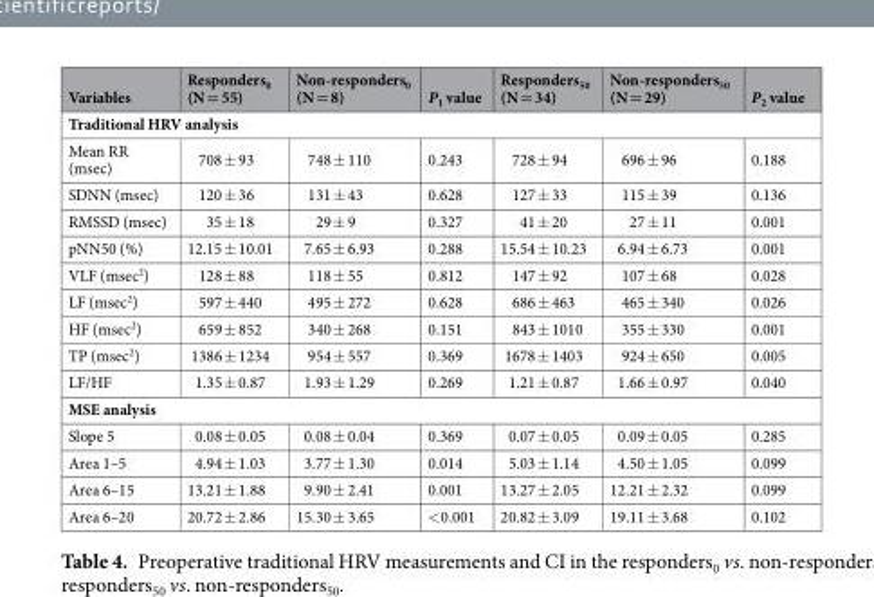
<table><thead><tr><td>Variables</td><td>Responders<sub>0</sub> (N = 55)</td><td>Non-responders<sub>0</sub> (N = 8)</td><td>P<sub>1</sub> value</td><td>Responders<sub>50</sub> (N = 34)</td><td>Non-responders<sub>50</sub> (N = 29)</td><td>P<sub>2</sub> value</td></tr></thead><tbody><tr><td colspan="7">Traditional HRV analysis</td></tr><tr><td>Mean RR (msec)</td><td>708 ± 93</td><td>748 ± 110</td><td>0.243</td><td>728 ± 94</td><td>696 ± 96</td><td>0.188</td></tr><tr><td>SDNN (msec)</td><td>120 ± 36</td><td>131 ± 43</td><td>0.628</td><td>127 ± 33</td><td>115 ± 39</td><td>0.136</td></tr><tr><td>RMSSD (msec)</td><td>35 ± 18</td><td>29 ± 9</td><td>0.327</td><td>41 ± 20</td><td>27 ± 11</td><td>0.001</td></tr><tr><td>pNN50 (%)</td><td>12.15 ± 10.01</td><td>7.65 ± 6.93</td><td>0.288</td><td>15.54 ± 10.23</td><td>6.94 ± 6.73</td><td>0.001</td></tr><tr><td>VLF (msec<sup>2</sup>)</td><td>128 ± 88</td><td>118 ± 55</td><td>0.812</td><td>147 ± 92</td><td>107 ± 68</td><td>0.028</td></tr><tr><td>LF (msec<sup>2</sup>)</td><td>597 ± 440</td><td>495 ± 272</td><td>0.628</td><td>686 ± 463</td><td>465 ± 340</td><td>0.026</td></tr><tr><td>HF (msec<sup>2</sup>)</td><td>659 ± 852</td><td>340 ± 268</td><td>0.151</td><td>843 ± 1010</td><td>355 ± 330</td><td>0.001</td></tr><tr><td>TP (msec<sup>2</sup>)</td><td>1386 ± 1234</td><td>954 ± 557</td><td>0.369</td><td>1678 ± 1403</td><td>924 ± 650</td><td>0.005</td></tr><tr><td>LF/HF</td><td>1.35 ± 0.87</td><td>1.93 ± 1.29</td><td>0.269</td><td>1.21 ± 0.87</td><td>1.66 ± 0.97</td><td>0.040</td></tr><tr><td colspan="7">MSE analysis</td></tr><tr><td>Slope 5</td><td>0.08 ± 0.05</td><td>0.08 ± 0.04</td><td>0.369</td><td>0.07 ± 0.05</td><td>0.09 ± 0.05</td><td>0.285</td></tr><tr><td>Area 1–5</td><td>4.94 ± 1.03</td><td>3.77 ± 1.30</td><td>0.014</td><td>5.03 ± 1.14</td><td>4.50 ± 1.05</td><td>0.099</td></tr><tr><td>Area 6–15</td><td>13.21 ± 1.88</td><td>9.90 ± 2.41</td><td>0.001</td><td>13.27 ± 2.05</td><td>12.21 ± 2.32</td><td>0.099</td></tr><tr><td>Area 6–20</td><td>20.72 ± 2.86</td><td>15.30 ± 3.65</td><td>&lt;0.001</td><td>20.82 ± 3.09</td><td>19.11 ± 3.68</td><td>0.102</td></tr></tbody></table>